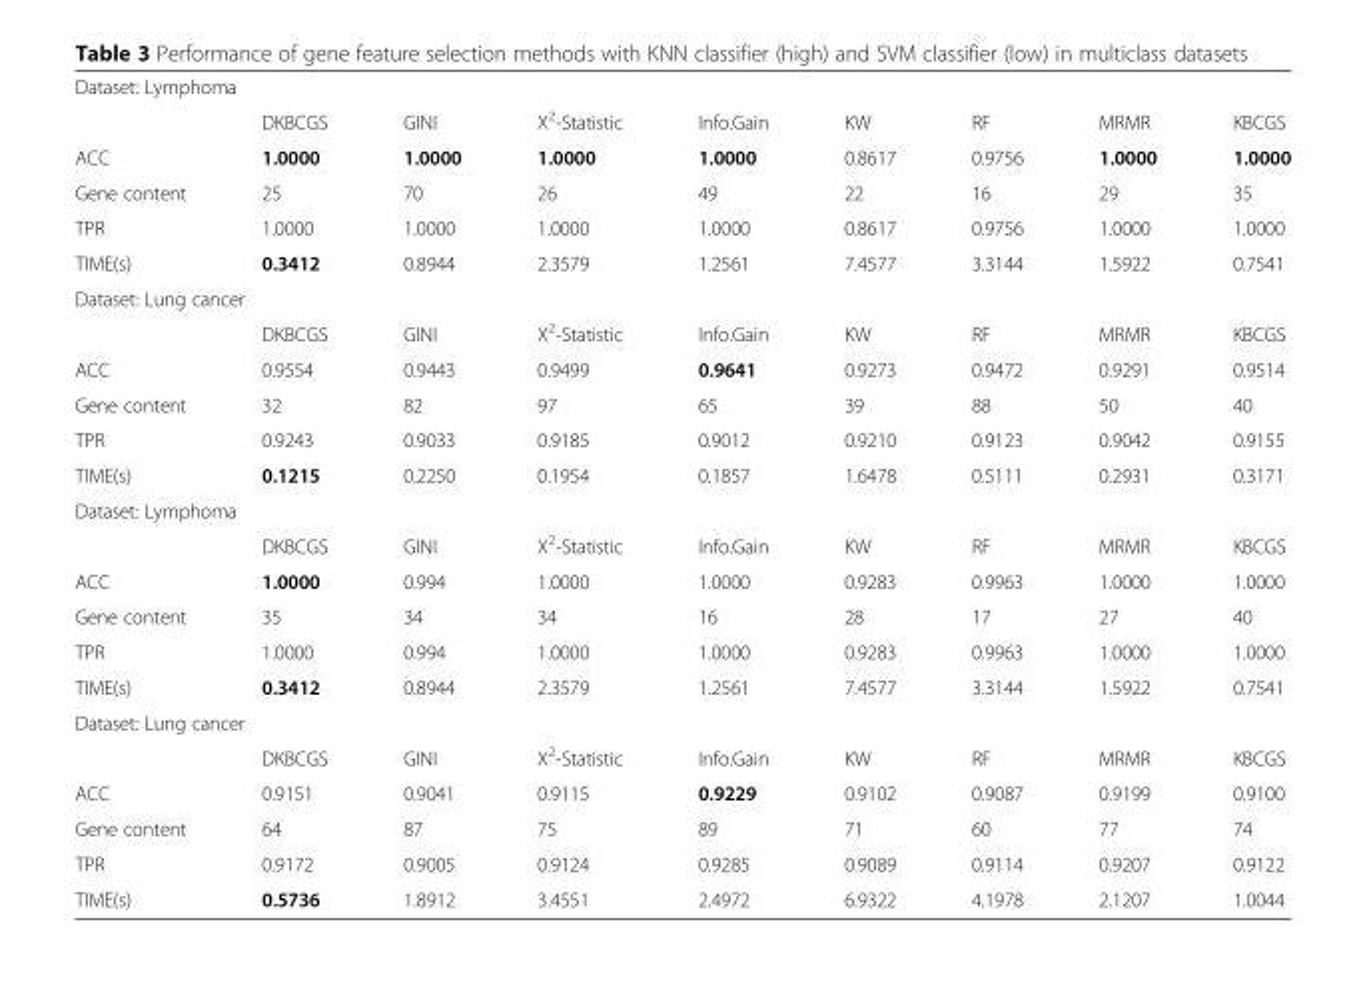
<table><tbody><tr><td colspan="9">Dataset: Lymphoma</td></tr><tr><td></td><td>DKBCGS</td><td>GINI</td><td>Χ<sup>2</sup>-Statistic</td><td>Info.Gain</td><td>KW</td><td>RF</td><td>MRMR</td><td>KBCGS</td></tr><tr><td>ACC</td><td>1.0000</td><td>1.0000</td><td>1.0000</td><td>1.0000</td><td>0.8617</td><td>0.9756</td><td>1.0000</td><td>1.0000</td></tr><tr><td>Gene content</td><td>25</td><td>70</td><td>26</td><td>49</td><td>22</td><td>16</td><td>29</td><td>35</td></tr><tr><td>TPR</td><td>1.0000</td><td>1.0000</td><td>1.0000</td><td>1.0000</td><td>0.8617</td><td>0.9756</td><td>1.0000</td><td>1.0000</td></tr><tr><td>TIME(s)</td><td>0.3412</td><td>0.8944</td><td>2.3579</td><td>1.2561</td><td>7.4577</td><td>3.3144</td><td>1.5922</td><td>0.7541</td></tr><tr><td colspan="9">Dataset: Lung cancer</td></tr><tr><td></td><td>DKBCGS</td><td>GINI</td><td>Χ<sup>2</sup>-Statistic</td><td>Info.Gain</td><td>KW</td><td>RF</td><td>MRMR</td><td>KBCGS</td></tr><tr><td>ACC</td><td>0.9554</td><td>0.9443</td><td>0.9499</td><td>0.9641</td><td>0.9273</td><td>0.9472</td><td>0.9291</td><td>0.9514</td></tr><tr><td>Gene content</td><td>32</td><td>82</td><td>97</td><td>65</td><td>39</td><td>88</td><td>50</td><td>40</td></tr><tr><td>TPR</td><td>0.9243</td><td>0.9033</td><td>0.9185</td><td>0.9012</td><td>0.9210</td><td>0.9123</td><td>0.9042</td><td>0.9155</td></tr><tr><td>TIME(s)</td><td>0.1215</td><td>0.2250</td><td>0.1954</td><td>0.1857</td><td>1.6478</td><td>0.5111</td><td>0.2931</td><td>0.3171</td></tr><tr><td colspan="9">Dataset: Lymphoma</td></tr><tr><td></td><td>DKBCGS</td><td>GINI</td><td>Χ<sup>2</sup>-Statistic</td><td>Info.Gain</td><td>KW</td><td>RF</td><td>MRMR</td><td>KBCGS</td></tr><tr><td>ACC</td><td>1.0000</td><td>0.994</td><td>1.0000</td><td>1.0000</td><td>0.9283</td><td>0.9963</td><td>1.0000</td><td>1.0000</td></tr><tr><td>Gene content</td><td>35</td><td>34</td><td>34</td><td>16</td><td>28</td><td>17</td><td>27</td><td>40</td></tr><tr><td>TPR</td><td>1.0000</td><td>0.994</td><td>1.0000</td><td>1.0000</td><td>0.9283</td><td>0.9963</td><td>1.0000</td><td>1.0000</td></tr><tr><td>TIME(s)</td><td>0.3412</td><td>0.8944</td><td>2.3579</td><td>1.2561</td><td>7.4577</td><td>3.3144</td><td>1.5922</td><td>0.7541</td></tr><tr><td colspan="9">Dataset: Lung cancer</td></tr><tr><td></td><td>DKBCGS</td><td>GINI</td><td>Χ<sup>2</sup>-Statistic</td><td>Info.Gain</td><td>KW</td><td>RF</td><td>MRMR</td><td>KBCGS</td></tr><tr><td>ACC</td><td>0.9151</td><td>0.9041</td><td>0.9115</td><td>0.9229</td><td>0.9102</td><td>0.9087</td><td>0.9199</td><td>0.9100</td></tr><tr><td>Gene content</td><td>64</td><td>87</td><td>75</td><td>89</td><td>71</td><td>60</td><td>77</td><td>74</td></tr><tr><td>TPR</td><td>0.9172</td><td>0.9005</td><td>0.9124</td><td>0.9285</td><td>0.9089</td><td>0.9114</td><td>0.9207</td><td>0.9122</td></tr><tr><td>TIME(s)</td><td>0.5736</td><td>1.8912</td><td>3.4551</td><td>2.4972</td><td>6.9322</td><td>4.1978</td><td>2.1207</td><td>1.0044</td></tr></tbody></table>